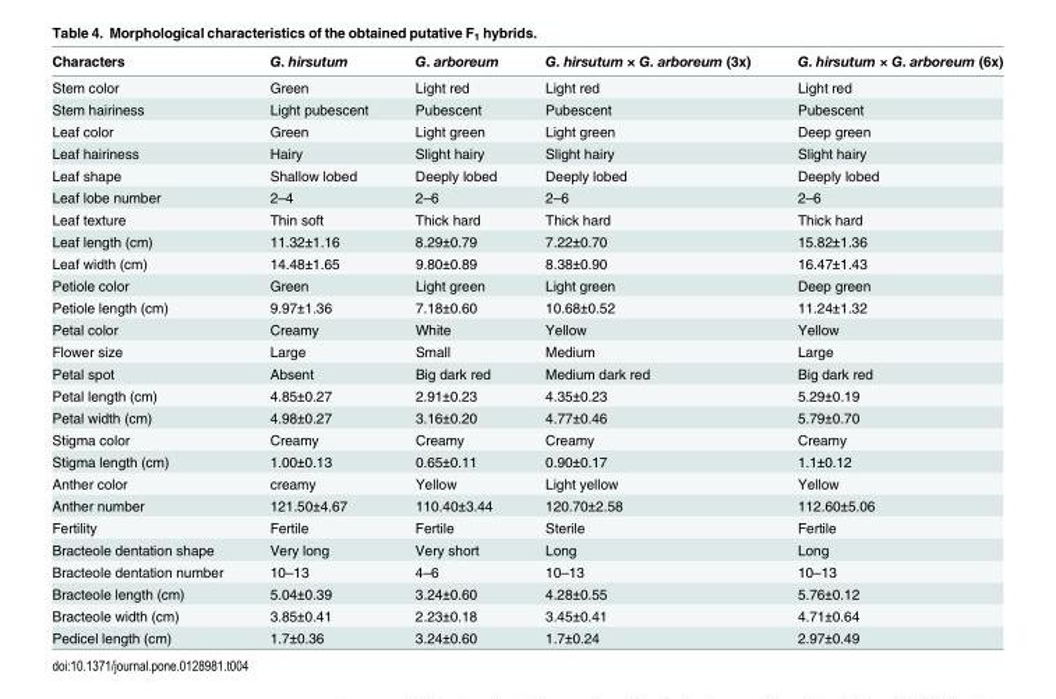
<table><thead><tr><td>Characters</td><td>G. hirsutum</td><td>G. arboreum</td><td>G. hirsutum × G. arboreum (3x)</td><td>G. hirsutum × G. arboreum (6x)</td></tr></thead><tbody><tr><td>Stem color</td><td>Green</td><td>Light red</td><td>Light red</td><td>Light red</td></tr><tr><td>Stem hairiness</td><td>Light pubescent</td><td>Pubescent</td><td>Pubescent</td><td>Pubescent</td></tr><tr><td>Leaf color</td><td>Green</td><td>Light green</td><td>Light green</td><td>Deep green</td></tr><tr><td>Leaf hairiness</td><td>Hairy</td><td>Slight hairy</td><td>Slight hairy</td><td>Slight hairy</td></tr><tr><td>Leaf shape</td><td>Shallow lobed</td><td>Deeply lobed</td><td>Deeply lobed</td><td>Deeply lobed</td></tr><tr><td>Leaf lobe number</td><td>2–4</td><td>2–6</td><td>2–6</td><td>2–6</td></tr><tr><td>Leaf texture</td><td>Thin soft</td><td>Thick hard</td><td>Thick hard</td><td>Thick hard</td></tr><tr><td>Leaf length (cm)</td><td>11.32±1.16</td><td>8.29±0.79</td><td>7.22±0.70</td><td>15.82±1.36</td></tr><tr><td>Leaf width (cm)</td><td>14.48±1.65</td><td>9.80±0.89</td><td>8.38±0.90</td><td>16.47±1.43</td></tr><tr><td>Petiole color</td><td>Green</td><td>Light green</td><td>Light green</td><td>Deep green</td></tr><tr><td>Petiole length (cm)</td><td>9.97±1.36</td><td>7.18±0.60</td><td>10.68±0.52</td><td>11.24±1.32</td></tr><tr><td>Petal color</td><td>Creamy</td><td>White</td><td>Yellow</td><td>Yellow</td></tr><tr><td>Flower size</td><td>Large</td><td>Small</td><td>Medium</td><td>Large</td></tr><tr><td>Petal spot</td><td>Absent</td><td>Big dark red</td><td>Medium dark red</td><td>Big dark red</td></tr><tr><td>Petal length (cm)</td><td>4.85±0.27</td><td>2.91±0.23</td><td>4.35±0.23</td><td>5.29±0.19</td></tr><tr><td>Petal width (cm)</td><td>4.98±0.27</td><td>3.16±0.20</td><td>4.77±0.46</td><td>5.79±0.70</td></tr><tr><td>Stigma color</td><td>Creamy</td><td>Creamy</td><td>Creamy</td><td>Creamy</td></tr><tr><td>Stigma length (cm)</td><td>1.00±0.13</td><td>0.65±0.11</td><td>0.90±0.17</td><td>1.1±0.12</td></tr><tr><td>Anther color</td><td>creamy</td><td>Yellow</td><td>Light yellow</td><td>Yellow</td></tr><tr><td>Anther number</td><td>121.50±4.67</td><td>110.40±3.44</td><td>120.70±2.58</td><td>112.60±5.06</td></tr><tr><td>Fertility</td><td>Fertile</td><td>Fertile</td><td>Sterile</td><td>Fertile</td></tr><tr><td>Bracteole dentation shape</td><td>Very long</td><td>Very short</td><td>Long</td><td>Long</td></tr><tr><td>Bracteole dentation number</td><td>10–13</td><td>4–6</td><td>10–13</td><td>10–13</td></tr><tr><td>Bracteole length (cm)</td><td>5.04±0.39</td><td>3.24±0.60</td><td>4.28±0.55</td><td>5.76±0.12</td></tr><tr><td>Bracteole width (cm)</td><td>3.85±0.41</td><td>2.23±0.18</td><td>3.45±0.41</td><td>4.71±0.64</td></tr><tr><td>Pedicel length (cm)</td><td>1.7±0.36</td><td>3.24±0.60</td><td>1.7±0.24</td><td>2.97±0.49</td></tr></tbody></table>